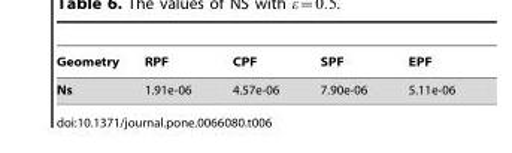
<table><thead><tr><td>Geometry</td><td>RPF</td><td>CPF</td><td>SPF</td><td>EPF</td></tr></thead><tbody><tr><td>Ns</td><td>1.91e-06</td><td>4.57e-06</td><td>7.90e-06</td><td>5.11e-06</td></tr></tbody></table>